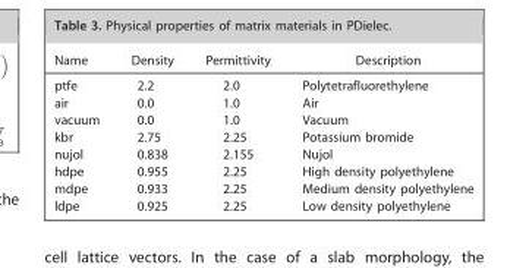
<table><thead><tr><td>Name</td><td>Density</td><td>Permittivity</td><td>Description</td></tr></thead><tbody><tr><td>ptfe</td><td>2.2</td><td>2.0</td><td>Polytetrafluorethylene</td></tr><tr><td>air</td><td>0.0</td><td>1.0</td><td>Air</td></tr><tr><td>vacuum</td><td>0.0</td><td>1.0</td><td>Vacuum</td></tr><tr><td>kbr</td><td>2.75</td><td>2.25</td><td>Potassium bromide</td></tr><tr><td>nujol</td><td>0.838</td><td>2.155</td><td>Nujol</td></tr><tr><td>hdpe</td><td>0.955</td><td>2.25</td><td>High density polyethylene</td></tr><tr><td>mdpe</td><td>0.933</td><td>2.25</td><td>Medium density polyethylene</td></tr><tr><td>ldpe</td><td>0.925</td><td>2.25</td><td>Low density polyethylene</td></tr></tbody></table>